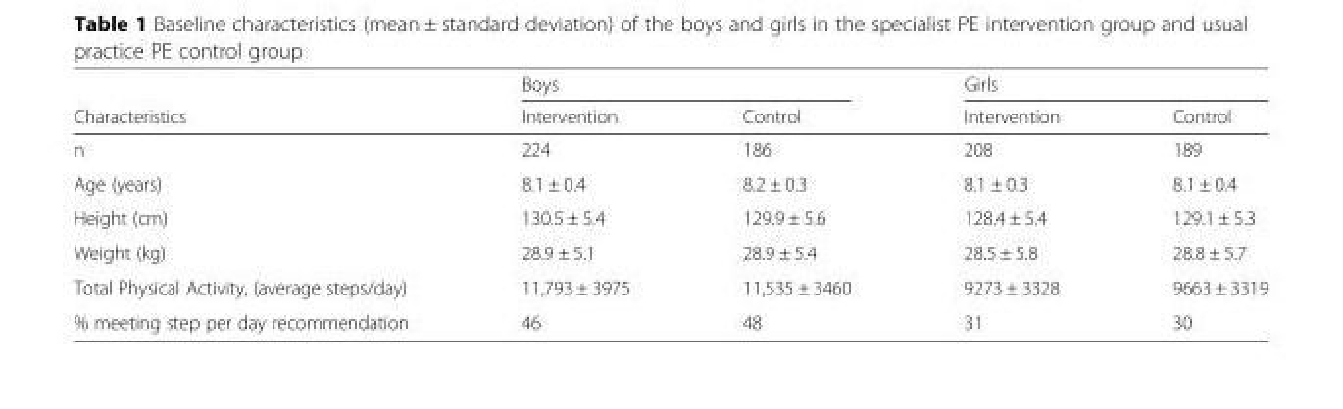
<table><thead><tr><td rowspan="2">Characteristics</td><td colspan="2">Boys</td><td colspan="2">Girls</td></tr><tr><td>Intervention</td><td>Control</td><td>Intervention</td><td>Control</td></tr></thead><tbody><tr><td>n</td><td>224</td><td>186</td><td>208</td><td>189</td></tr><tr><td>Age (years)</td><td>8.1 ± 0.4</td><td>8.2 ± 0.3</td><td>8.1 ± 0.3</td><td>8.1 ± 0.4</td></tr><tr><td>Height (cm)</td><td>130.5 ± 5.4</td><td>129.9 ± 5.6</td><td>128.4 ± 5.4</td><td>129.1 ± 5.3</td></tr><tr><td>Weight (kg)</td><td>28.9 ± 5.1</td><td>28.9 ± 5.4</td><td>28.5 ± 5.8</td><td>28.8 ± 5.7</td></tr><tr><td>Total Physical Activity, (average steps/day)</td><td>11,793 ± 3975</td><td>11,535 ± 3460</td><td>9273 ± 3328</td><td>9663 ± 3319</td></tr><tr><td>% meeting step per day recommendation</td><td>46</td><td>48</td><td>31</td><td>30</td></tr></tbody></table>